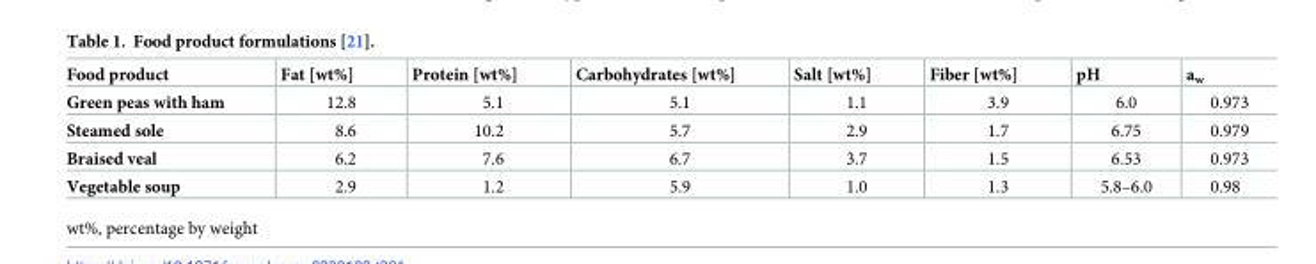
<table><thead><tr><td>Food product</td><td>Fat [wt%]</td><td>Protein [wt%]</td><td>Carbohydrates [wt%]</td><td>Salt [wt%]</td><td>Fiber [wt%]</td><td>pH</td><td>a<sub>w</sub></td></tr></thead><tbody><tr><td>Green peas with ham</td><td>12.8</td><td>5.1</td><td>5.1</td><td>1.1</td><td>3.9</td><td>6.0</td><td>0.973</td></tr><tr><td>Steamed sole</td><td>8.6</td><td>10.2</td><td>5.7</td><td>2.9</td><td>1.7</td><td>6.75</td><td>0.979</td></tr><tr><td>Braised veal</td><td>6.2</td><td>7.6</td><td>6.7</td><td>3.7</td><td>1.5</td><td>6.53</td><td>0.973</td></tr><tr><td>Vegetable soup</td><td>2.9</td><td>1.2</td><td>5.9</td><td>1.0</td><td>1.3</td><td>5.8–6.0</td><td>0.98</td></tr></tbody></table>